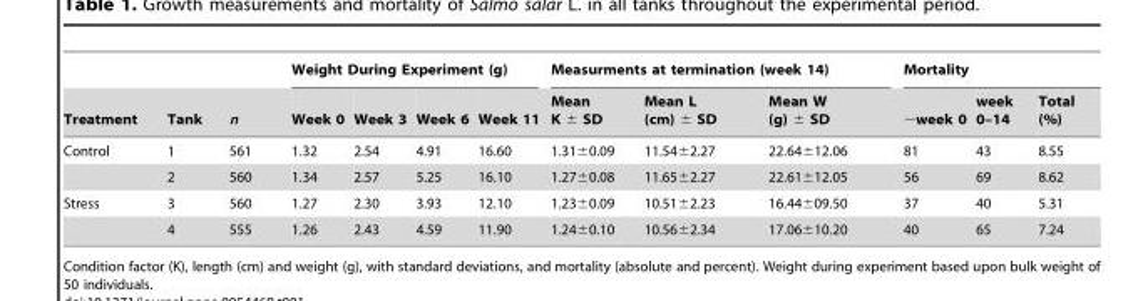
<table><thead><tr><td rowspan="2">Treatment</td><td rowspan="2">Tank</td><td rowspan="2">n</td><td colspan="4">Weight During Experiment (g)</td><td colspan="3">Measurments at termination (week 14)</td><td colspan="3">Mortality</td></tr><tr><td>Week 0</td><td>Week 3</td><td>Week 6</td><td>Week 11</td><td>Mean K ± SD</td><td>Mean L (cm) ± SD</td><td>Mean W (g) ± SD</td><td>∼week 0</td><td>week 0–14</td><td>Total (%)</td></tr></thead><tbody><tr><td rowspan="2">Control</td><td>1</td><td>561</td><td>1.32</td><td>2.54</td><td>4.91</td><td>16.60</td><td>1.31±0.09</td><td>11.54±2.27</td><td>22.64±12.06</td><td>81</td><td>43</td><td>8.55</td></tr><tr><td>2</td><td>560</td><td>1.34</td><td>2.57</td><td>5.25</td><td>16.10</td><td>1.27±0.08</td><td>11.65±2.27</td><td>22.61±12.05</td><td>56</td><td>69</td><td>8.62</td></tr><tr><td rowspan="2">Stress</td><td>3</td><td>560</td><td>1.27</td><td>2.30</td><td>3.93</td><td>12.10</td><td>1.23±0.09</td><td>10.51±2.23</td><td>16.44±09.50</td><td>37</td><td>40</td><td>5.31</td></tr><tr><td>4</td><td>555</td><td>1.26</td><td>2.43</td><td>4.59</td><td>11.90</td><td>1.24±0.10</td><td>10.56±2.34</td><td>17.06±10.20</td><td>40</td><td>65</td><td>7.24</td></tr></tbody></table>